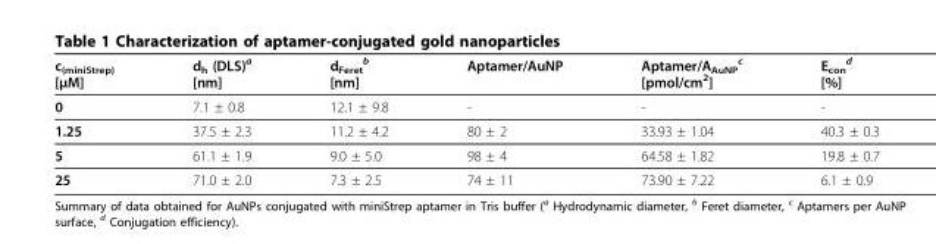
<table><thead><tr><td>c<sub>(miniStrep)</sub> [μM]</td><td>d<sub>h</sub> (DLS)<sup>a</sup> [nm]</td><td>d<sub>Feret</sub> <sup>b</sup> [nm]</td><td>Aptamer/AuNP</td><td>Aptamer/A<sub>AuNP</sub> <sup>c</sup> [pmol/cm<sup>2</sup>]</td><td>E<sub>con</sub> <sup>d</sup> [%]</td></tr></thead><tbody><tr><td>0</td><td>7.1 ± 0.8</td><td>12.1 ± 9.8</td><td>-</td><td>-</td><td>-</td></tr><tr><td>1.25</td><td>37.5 ± 2.3</td><td>11.2 ± 4.2</td><td>80 ± 2</td><td>33.93 ± 1.04</td><td>40.3 ± 0.3</td></tr><tr><td>5</td><td>61.1 ± 1.9</td><td>9.0 ± 5.0</td><td>98 ± 4</td><td>64.58 ± 1.82</td><td>19.8 ± 0.7</td></tr><tr><td>25</td><td>71.0 ± 2.0</td><td>7.3 ± 2.5</td><td>74 ± 11</td><td>73.90 ± 7.22</td><td>6.1 ± 0.9</td></tr></tbody></table>